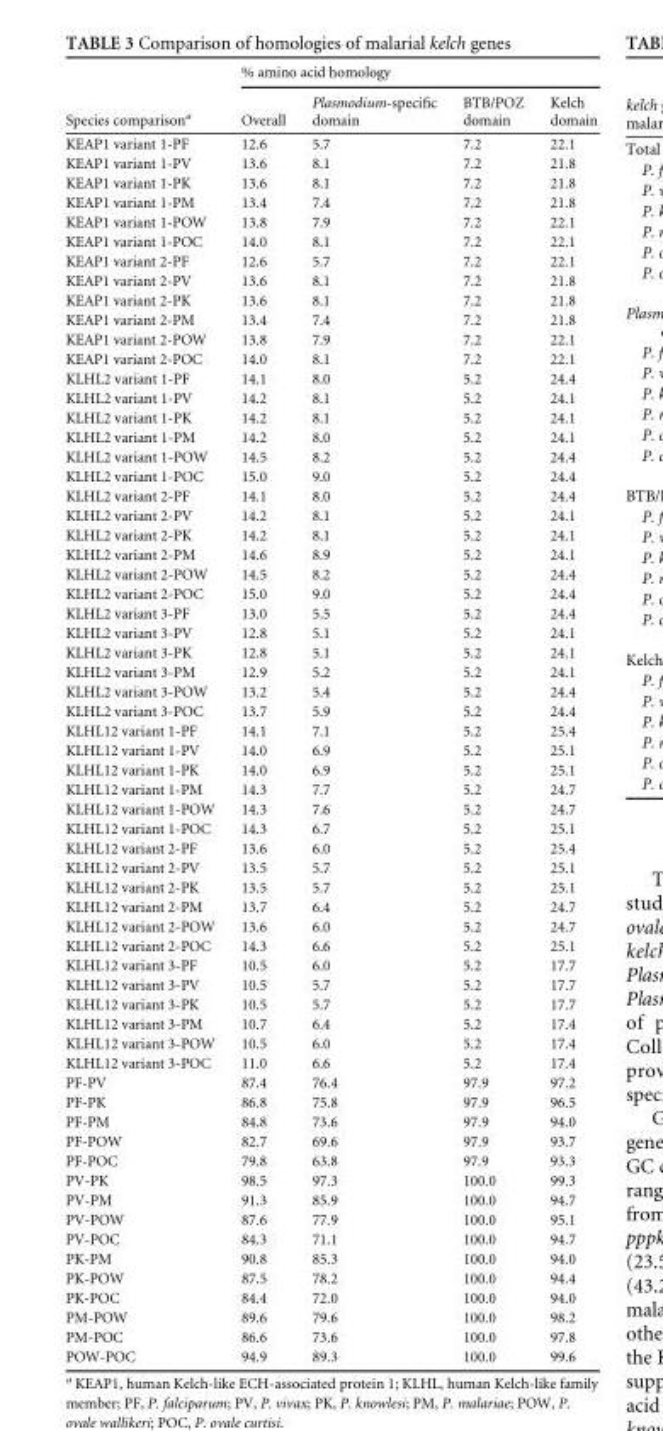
<table><thead><tr><td rowspan="2">Species comparison<sup>a</sup></td><td colspan="4">% amino acid homology</td></tr><tr><td>Overall</td><td>Plasmodium-specific domain</td><td>BTB/POZ domain</td><td>Kelch domain</td></tr></thead><tbody><tr><td>KEAP1 variant 1-PF</td><td>12.6</td><td>5.7</td><td>7.2</td><td>22.1</td></tr><tr><td>KEAP1 variant 1-PV</td><td>13.6</td><td>8.1</td><td>7.2</td><td>21.8</td></tr><tr><td>KEAP1 variant 1-PK</td><td>13.6</td><td>8.1</td><td>7.2</td><td>21.8</td></tr><tr><td>KEAP1 variant 1-PM</td><td>13.4</td><td>7.4</td><td>7.2</td><td>21.8</td></tr><tr><td>KEAP1 variant 1-POW</td><td>13.8</td><td>7.9</td><td>7.2</td><td>22.1</td></tr><tr><td>KEAP1 variant 1-POC</td><td>14.0</td><td>8.1</td><td>7.2</td><td>22.1</td></tr><tr><td>KEAP1 variant 2-PF</td><td>12.6</td><td>5.7</td><td>7.2</td><td>22.1</td></tr><tr><td>KEAP1 variant 2-PV</td><td>13.6</td><td>8.1</td><td>7.2</td><td>21.8</td></tr><tr><td>KEAP1 variant 2-PK</td><td>13.6</td><td>8.1</td><td>7.2</td><td>21.8</td></tr><tr><td>KEAP1 variant 2-PM</td><td>13.4</td><td>7.4</td><td>7.2</td><td>21.8</td></tr><tr><td>KEAP1 variant 2-POW</td><td>13.8</td><td>7.9</td><td>7.2</td><td>22.1</td></tr><tr><td>KEAP1 variant 2-POC</td><td>14.0</td><td>8.1</td><td>7.2</td><td>22.1</td></tr><tr><td>KLHL2 variant 1-PF</td><td>14.1</td><td>8.0</td><td>5.2</td><td>24.4</td></tr><tr><td>KLHL2 variant 1-PV</td><td>14.2</td><td>8.1</td><td>5.2</td><td>24.1</td></tr><tr><td>KLHL2 variant 1-PK</td><td>14.2</td><td>8.1</td><td>5.2</td><td>24.1</td></tr><tr><td>KLHL2 variant 1-PM</td><td>14.2</td><td>8.0</td><td>5.2</td><td>24.1</td></tr><tr><td>KLHL2 variant 1-POW</td><td>14.5</td><td>8.2</td><td>5.2</td><td>24.4</td></tr><tr><td>KLHL2 variant 1-POC</td><td>15.0</td><td>9.0</td><td>5.2</td><td>24.4</td></tr><tr><td>KLHL2 variant 2-PF</td><td>14.1</td><td>8.0</td><td>5.2</td><td>24.4</td></tr><tr><td>KLHL2 variant 2-PV</td><td>14.2</td><td>8.1</td><td>5.2</td><td>24.1</td></tr><tr><td>KLHL2 variant 2-PK</td><td>14.2</td><td>8.1</td><td>5.2</td><td>24.1</td></tr><tr><td>KLHL2 variant 2-PM</td><td>14.6</td><td>8.9</td><td>5.2</td><td>24.1</td></tr><tr><td>KLHL2 variant 2-POW</td><td>14.5</td><td>8.2</td><td>5.2</td><td>24.4</td></tr><tr><td>KLHL2 variant 2-POC</td><td>15.0</td><td>9.0</td><td>5.2</td><td>24.4</td></tr><tr><td>KLHL2 variant 3-PF</td><td>13.0</td><td>5.5</td><td>5.2</td><td>24.4</td></tr><tr><td>KLHL2 variant 3-PV</td><td>12.8</td><td>5.1</td><td>5.2</td><td>24.1</td></tr><tr><td>KLHL2 variant 3-PK</td><td>12.8</td><td>5.1</td><td>5.2</td><td>24.1</td></tr><tr><td>KLHL2 variant 3-PM</td><td>12.9</td><td>5.2</td><td>5.2</td><td>24.1</td></tr><tr><td>KLHL2 variant 3-POW</td><td>13.2</td><td>5.4</td><td>5.2</td><td>24.4</td></tr><tr><td>KLHL2 variant 3-POC</td><td>13.7</td><td>5.9</td><td>5.2</td><td>24.4</td></tr><tr><td>KLHL12 variant 1-PF</td><td>14.1</td><td>7.1</td><td>5.2</td><td>25.4</td></tr><tr><td>KLHL12 variant 1-PV</td><td>14.0</td><td>6.9</td><td>5.2</td><td>25.1</td></tr><tr><td>KLHL12 variant 1-PK</td><td>14.0</td><td>6.9</td><td>5.2</td><td>25.1</td></tr><tr><td>KLHL12 variant 1-PM</td><td>14.3</td><td>7.7</td><td>5.2</td><td>24.7</td></tr><tr><td>KLHL12 variant 1-POW</td><td>14.3</td><td>7.6</td><td>5.2</td><td>24.7</td></tr><tr><td>KLHL12 variant 1-POC</td><td>14.3</td><td>6.7</td><td>5.2</td><td>25.1</td></tr><tr><td>KLHL12 variant 2-PF</td><td>13.6</td><td>6.0</td><td>5.2</td><td>25.4</td></tr><tr><td>KLHL12 variant 2-PV</td><td>13.5</td><td>5.7</td><td>5.2</td><td>25.1</td></tr><tr><td>KLHL12 variant 2-PK</td><td>13.5</td><td>5.7</td><td>5.2</td><td>25.1</td></tr><tr><td>KLHL12 variant 2-PM</td><td>13.7</td><td>6.4</td><td>5.2</td><td>24.7</td></tr><tr><td>KLHL12 variant 2-POW</td><td>13.6</td><td>6.0</td><td>5.2</td><td>24.7</td></tr><tr><td>KLHL12 variant 2-POC</td><td>14.3</td><td>6.6</td><td>5.2</td><td>25.1</td></tr><tr><td>KLHL12 variant 3-PF</td><td>10.5</td><td>6.0</td><td>5.2</td><td>17.7</td></tr><tr><td>KLHL12 variant 3-PV</td><td>10.5</td><td>5.7</td><td>5.2</td><td>17.7</td></tr><tr><td>KLHL12 variant 3-PK</td><td>10.5</td><td>5.7</td><td>5.2</td><td>17.7</td></tr><tr><td>KLHL12 variant 3-PM</td><td>10.7</td><td>6.4</td><td>5.2</td><td>17.4</td></tr><tr><td>KLHL12 variant 3-POW</td><td>10.5</td><td>6.0</td><td>5.2</td><td>17.4</td></tr><tr><td>KLHL12 variant 3-POC</td><td>11.0</td><td>6.6</td><td>5.2</td><td>17.4</td></tr><tr><td>PF-PV</td><td>87.4</td><td>76.4</td><td>97.9</td><td>97.2</td></tr><tr><td>PF-PK</td><td>86.8</td><td>75.8</td><td>97.9</td><td>96.5</td></tr><tr><td>PF-PM</td><td>84.8</td><td>73.6</td><td>97.9</td><td>94.0</td></tr><tr><td>PF-POW</td><td>82.7</td><td>69.6</td><td>97.9</td><td>93.7</td></tr><tr><td>PF-POC</td><td>79.8</td><td>63.8</td><td>97.9</td><td>93.3</td></tr><tr><td>PV-PK</td><td>98.5</td><td>97.3</td><td>100.0</td><td>99.3</td></tr><tr><td>PV-PM</td><td>91.3</td><td>85.9</td><td>100.0</td><td>94.7</td></tr><tr><td>PV-POW</td><td>87.6</td><td>77.9</td><td>100.0</td><td>95.1</td></tr><tr><td>PV-POC</td><td>84.3</td><td>71.1</td><td>100.0</td><td>94.7</td></tr><tr><td>PK-PM</td><td>90.8</td><td>85.3</td><td>100.0</td><td>94.0</td></tr><tr><td>PK-POW</td><td>87.5</td><td>78.2</td><td>100.0</td><td>94.4</td></tr><tr><td>PK-POC</td><td>84.4</td><td>72.0</td><td>100.0</td><td>94.0</td></tr><tr><td>PM-POW</td><td>89.6</td><td>79.6</td><td>100.0</td><td>98.2</td></tr><tr><td>PM-POC</td><td>86.6</td><td>73.6</td><td>100.0</td><td>97.8</td></tr><tr><td>POW-POC</td><td>94.9</td><td>89.3</td><td>100.0</td><td>99.6</td></tr></tbody></table>